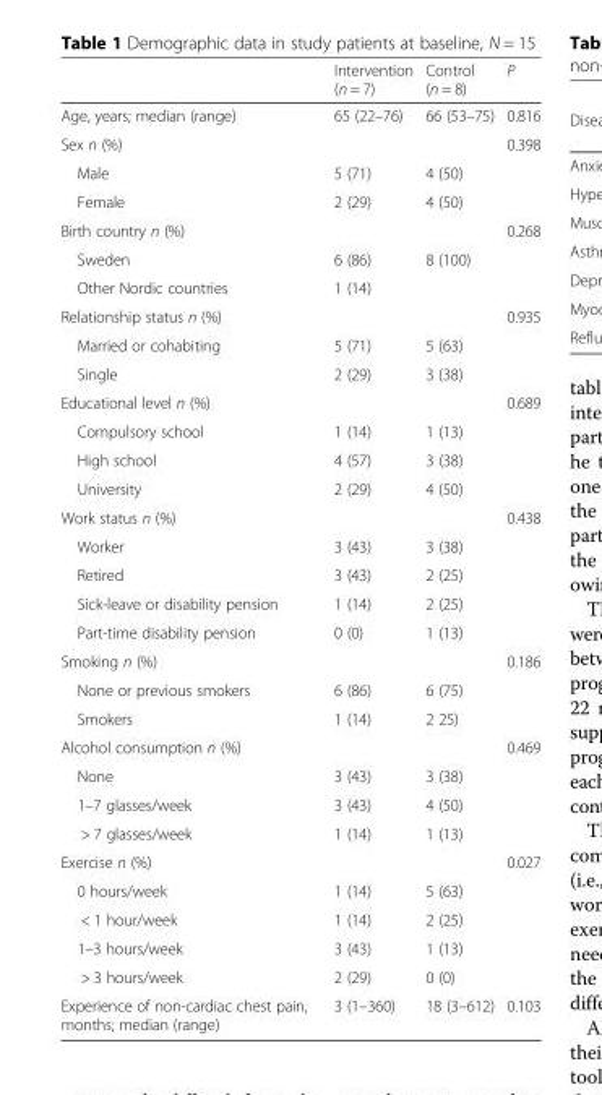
<table><thead><tr><td></td><td>Intervention (n = 7)</td><td>Control (n = 8)</td><td>P</td></tr></thead><tbody><tr><td>Age, years; median (range)</td><td>65 (22–76)</td><td>66 (53–75)</td><td>0.816</td></tr><tr><td>Sex n (%)</td><td></td><td></td><td>0.398</td></tr><tr><td>Male</td><td>5 (71)</td><td>4 (50)</td><td></td></tr><tr><td>Female</td><td>2 (29)</td><td>4 (50)</td><td></td></tr><tr><td>Birth country n (%)</td><td></td><td></td><td>0.268</td></tr><tr><td>Sweden</td><td>6 (86)</td><td>8 (100)</td><td></td></tr><tr><td>Other Nordic countries</td><td>1 (14)</td><td></td><td></td></tr><tr><td>Relationship status n (%)</td><td></td><td></td><td>0.935</td></tr><tr><td>Married or cohabiting</td><td>5 (71)</td><td>5 (63)</td><td></td></tr><tr><td>Single</td><td>2 (29)</td><td>3 (38)</td><td></td></tr><tr><td>Educational level n (%)</td><td></td><td></td><td>0.689</td></tr><tr><td>Compulsory school</td><td>1 (14)</td><td>1 (13)</td><td></td></tr><tr><td>High school</td><td>4 (57)</td><td>3 (38)</td><td></td></tr><tr><td>University</td><td>2 (29)</td><td>4 (50)</td><td></td></tr><tr><td>Work status n (%)</td><td></td><td></td><td>0.438</td></tr><tr><td>Worker</td><td>3 (43)</td><td>3 (38)</td><td></td></tr><tr><td>Retired</td><td>3 (43)</td><td>2 (25)</td><td></td></tr><tr><td>Sick-leave or disability pension</td><td>1 (14)</td><td>2 (25)</td><td></td></tr><tr><td>Part-time disability pension</td><td>0 (0)</td><td>1 (13)</td><td></td></tr><tr><td>Smoking n (%)</td><td></td><td></td><td>0.186</td></tr><tr><td>None or previous smokers</td><td>6 (86)</td><td>6 (75)</td><td></td></tr><tr><td>Smokers</td><td>1 (14)</td><td>2 25)</td><td></td></tr><tr><td>Alcohol consumption n (%)</td><td></td><td></td><td>0.469</td></tr><tr><td>None</td><td>3 (43)</td><td>3 (38)</td><td></td></tr><tr><td>1–7 glasses/week</td><td>3 (43)</td><td>4 (50)</td><td></td></tr><tr><td>&gt; 7 glasses/week</td><td>1 (14)</td><td>1 (13)</td><td></td></tr><tr><td>Exercise n (%)</td><td></td><td></td><td>0.027</td></tr><tr><td>0 hours/week</td><td>1 (14)</td><td>5 (63)</td><td></td></tr><tr><td>&lt; 1 hour/week</td><td>1 (14)</td><td>2 (25)</td><td></td></tr><tr><td>1–3 hours/week</td><td>3 (43)</td><td>1 (13)</td><td></td></tr><tr><td>&gt; 3 hours/week</td><td>2 (29)</td><td>0 (0)</td><td></td></tr><tr><td>Experience of non-cardiac chest pain, months; median (range)</td><td>3 (1–360)</td><td>18 (3–612)</td><td>0.103</td></tr></tbody></table>